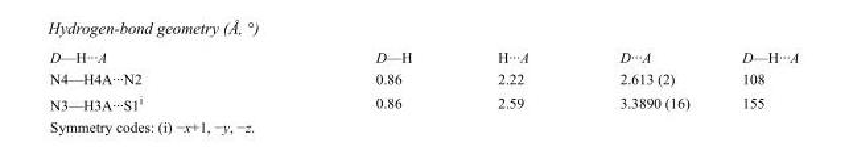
<table><tbody><tr><td>D—H···A</td><td>D—H</td><td>H···A</td><td>D···A</td><td>D—H···A</td></tr><tr><td>N4—H4A···N2</td><td>0.86</td><td>2.22</td><td>2.613 (2)</td><td>108</td></tr><tr><td>N3—H3A···S1<sup>i</sup></td><td>0.86</td><td>2.59</td><td>3.3890 (16)</td><td>155</td></tr></tbody></table>